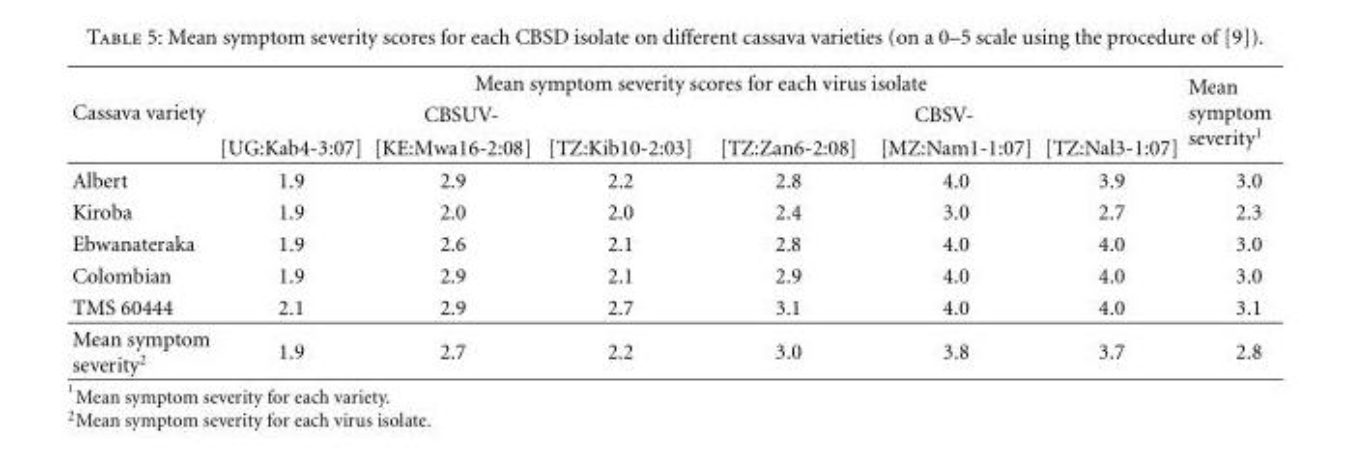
<table><thead><tr><td rowspan="3">Cassava variety</td><td colspan="6">Mean symptom severity scores for each virus isolate</td><td rowspan="3">Mean symptom severity<sup>1</sup></td></tr><tr><td colspan="3">CBSUV-</td><td colspan="3">CBSV-</td></tr><tr><td>[UG:Kab4-3:07]</td><td>[KE:Mwa16-2:08]</td><td>[TZ:Kib10-2:03]</td><td>[TZ:Zan6-2:08]</td><td>[MZ:Nam1-1:07]</td><td>[TZ:Nal3-1:07]</td></tr></thead><tbody><tr><td>Albert</td><td>1.9</td><td>2.9</td><td>2.2</td><td>2.8</td><td>4.0</td><td>3.9</td><td>3.0</td></tr><tr><td>Kiroba</td><td>1.9</td><td>2.0</td><td>2.0</td><td>2.4</td><td>3.0</td><td>2.7</td><td>2.3</td></tr><tr><td>Ebwanateraka</td><td>1.9</td><td>2.6</td><td>2.1</td><td>2.8</td><td>4.0</td><td>4.0</td><td>3.0</td></tr><tr><td>Colombian</td><td>1.9</td><td>2.9</td><td>2.1</td><td>2.9</td><td>4.0</td><td>4.0</td><td>3.0</td></tr><tr><td>TMS 60444</td><td>2.1</td><td>2.9</td><td>2.7</td><td>3.1</td><td>4.0</td><td>4.0</td><td>3.1</td></tr><tr><td>Mean symptom severity<sup>2</sup></td><td>1.9</td><td>2.7</td><td>2.2</td><td>3.0</td><td>3.8</td><td>3.7</td><td>2.8</td></tr></tbody></table>